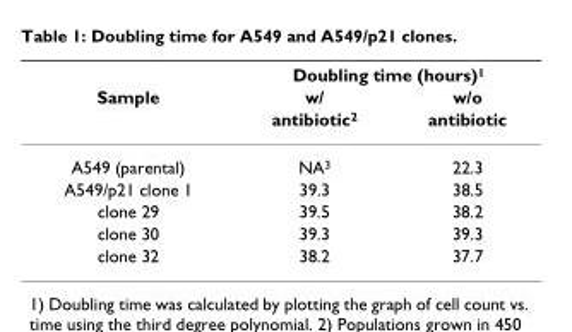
<table><thead><tr><td rowspan="3">Sample</td><td colspan="2">Doubling time (hours)<sup>1</sup></td></tr><tr><td rowspan="2">w/ antibiotic<sup>2</sup></td><td rowspan="2">w/o antibiotic</td></tr><tr></tr></thead><tbody><tr><td>A549 (parental)</td><td>NA<sup>3</sup></td><td>22.3</td></tr><tr><td>A549/p21 clone 1</td><td>39.3</td><td>38.5</td></tr><tr><td>clone 29</td><td>39.5</td><td>38.2</td></tr><tr><td>clone 30</td><td>39.3</td><td>39.3</td></tr><tr><td>clone 32</td><td>38.2</td><td>37.7</td></tr></tbody></table>